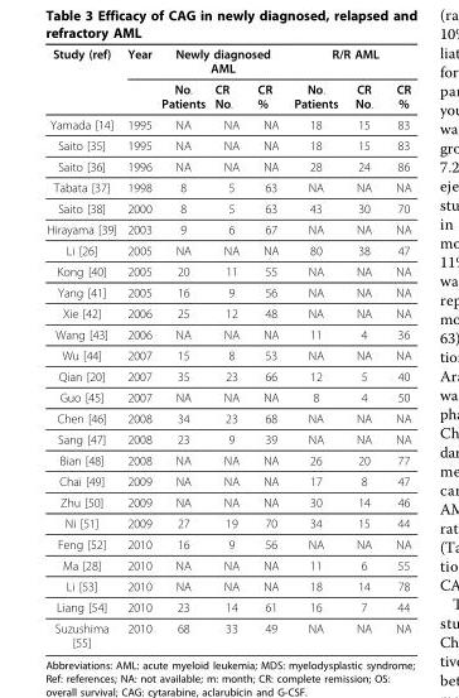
<table><tbody><tr><td rowspan="2">Study (ref)</td><td>Year</td><td colspan="3">Newly diagnosed AML</td><td colspan="3">R/R AML</td></tr><tr><td></td><td>No. Patients</td><td>CR No.</td><td>CR %</td><td>No. Patients</td><td>CR No.</td><td>CR %</td></tr><tr><td>Yamada [14]</td><td>1995</td><td>NA</td><td>NA</td><td>NA</td><td>18</td><td>15</td><td>83</td></tr><tr><td>Saito [35]</td><td>1995</td><td>NA</td><td>NA</td><td>NA</td><td>18</td><td>15</td><td>83</td></tr><tr><td>Saito [36]</td><td>1996</td><td>NA</td><td>NA</td><td>NA</td><td>28</td><td>24</td><td>86</td></tr><tr><td>Tabata [37]</td><td>1998</td><td>8</td><td>5</td><td>63</td><td>NA</td><td>NA</td><td>NA</td></tr><tr><td>Saito [38]</td><td>2000</td><td>8</td><td>5</td><td>63</td><td>43</td><td>30</td><td>70</td></tr><tr><td>Hirayama [39]</td><td>2003</td><td>9</td><td>6</td><td>67</td><td>NA</td><td>NA</td><td>NA</td></tr><tr><td>Li [26]</td><td>2005</td><td>NA</td><td>NA</td><td>NA</td><td>80</td><td>38</td><td>47</td></tr><tr><td>Kong [40]</td><td>2005</td><td>20</td><td>11</td><td>55</td><td>NA</td><td>NA</td><td>NA</td></tr><tr><td>Yang [41]</td><td>2005</td><td>16</td><td>9</td><td>56</td><td>NA</td><td>NA</td><td>NA</td></tr><tr><td>Xie [42]</td><td>2006</td><td>25</td><td>12</td><td>48</td><td>NA</td><td>NA</td><td>NA</td></tr><tr><td>Wang [43]</td><td>2006</td><td>NA</td><td>NA</td><td>NA</td><td>11</td><td>4</td><td>36</td></tr><tr><td>Wu [44]</td><td>2007</td><td>15</td><td>8</td><td>53</td><td>NA</td><td>NA</td><td>NA</td></tr><tr><td>Qian [20]</td><td>2007</td><td>35</td><td>23</td><td>66</td><td>12</td><td>5</td><td>40</td></tr><tr><td>Guo [45]</td><td>2007</td><td>NA</td><td>NA</td><td>NA</td><td>8</td><td>4</td><td>50</td></tr><tr><td>Chen [46]</td><td>2008</td><td>34</td><td>23</td><td>68</td><td>NA</td><td>NA</td><td>NA</td></tr><tr><td>Sang [47]</td><td>2008</td><td>23</td><td>9</td><td>39</td><td>NA</td><td>NA</td><td>NA</td></tr><tr><td>Bian [48]</td><td>2008</td><td>NA</td><td>NA</td><td>NA</td><td>26</td><td>20</td><td>77</td></tr><tr><td>Chai [49]</td><td>2009</td><td>NA</td><td>NA</td><td>NA</td><td>17</td><td>8</td><td>47</td></tr><tr><td>Zhu [50]</td><td>2009</td><td>NA</td><td>NA</td><td>NA</td><td>30</td><td>14</td><td>46</td></tr><tr><td>Ni [51]</td><td>2009</td><td>27</td><td>19</td><td>70</td><td>34</td><td>15</td><td>44</td></tr><tr><td>Feng [52]</td><td>2010</td><td>16</td><td>9</td><td>56</td><td>NA</td><td>NA</td><td>NA</td></tr><tr><td>Ma [28]</td><td>2010</td><td>NA</td><td>NA</td><td>NA</td><td>11</td><td>6</td><td>55</td></tr><tr><td>Li [53]</td><td>2010</td><td>NA</td><td>NA</td><td>NA</td><td>18</td><td>14</td><td>78</td></tr><tr><td>Liang [54]</td><td>2010</td><td>23</td><td>14</td><td>61</td><td>16</td><td>7</td><td>44</td></tr><tr><td>Suzushima [55]</td><td>2010</td><td>68</td><td>33</td><td>49</td><td>NA</td><td>NA</td><td>NA</td></tr></tbody></table>